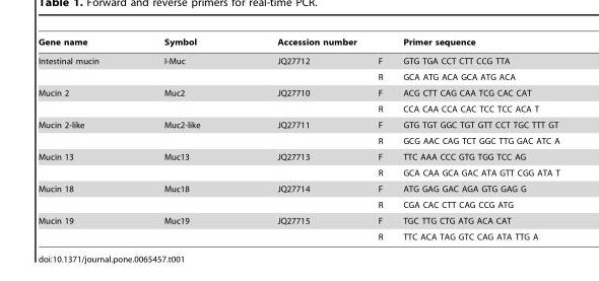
<table><thead><tr><td>Gene name</td><td>Symbol</td><td>Accession number</td><td></td><td>Primer sequence</td></tr></thead><tbody><tr><td rowspan="2">Intestinal mucin</td><td>I-Muc</td><td>JQ27712</td><td>F</td><td>GTG TGA CCT CTT CCG TTA</td></tr><tr><td></td><td></td><td>R</td><td>GCA ATG ACA GCA ATG ACA</td></tr><tr><td rowspan="2">Mucin 2</td><td>Muc2</td><td>JQ27710</td><td>F</td><td>ACG CTT CAG CAA TCG CAC CAT</td></tr><tr><td></td><td></td><td>R</td><td>CCA CAA CCA CAC TCC TCC ACA T</td></tr><tr><td rowspan="2">Mucin 2-like</td><td>Muc2-like</td><td>JQ27711</td><td>F</td><td>GTG TGT GGC TGT GTT CCT TGC TTT GT</td></tr><tr><td></td><td></td><td>R</td><td>GCG AAC CAG TCT GGC TTG GAC ATC A</td></tr><tr><td rowspan="2">Mucin 13</td><td>Muc13</td><td>JQ27713</td><td>F</td><td>TTC AAA CCC GTG TGG TCC AG</td></tr><tr><td></td><td></td><td>R</td><td>GCA CAA GCA GAC ATA GTT CGG ATA T</td></tr><tr><td rowspan="2">Mucin 18</td><td>Muc18</td><td>JQ27714</td><td>F</td><td>ATG GAG GAC AGA GTG GAG G</td></tr><tr><td></td><td></td><td>R</td><td>CGA CAC CTT CAG CCG ATG</td></tr><tr><td rowspan="2">Mucin 19</td><td>Muc19</td><td>JQ27715</td><td>F</td><td>TGC TTG CTG ATG ACA CAT</td></tr><tr><td></td><td></td><td>R</td><td>TTC ACA TAG GTC CAG ATA TTG A</td></tr></tbody></table>